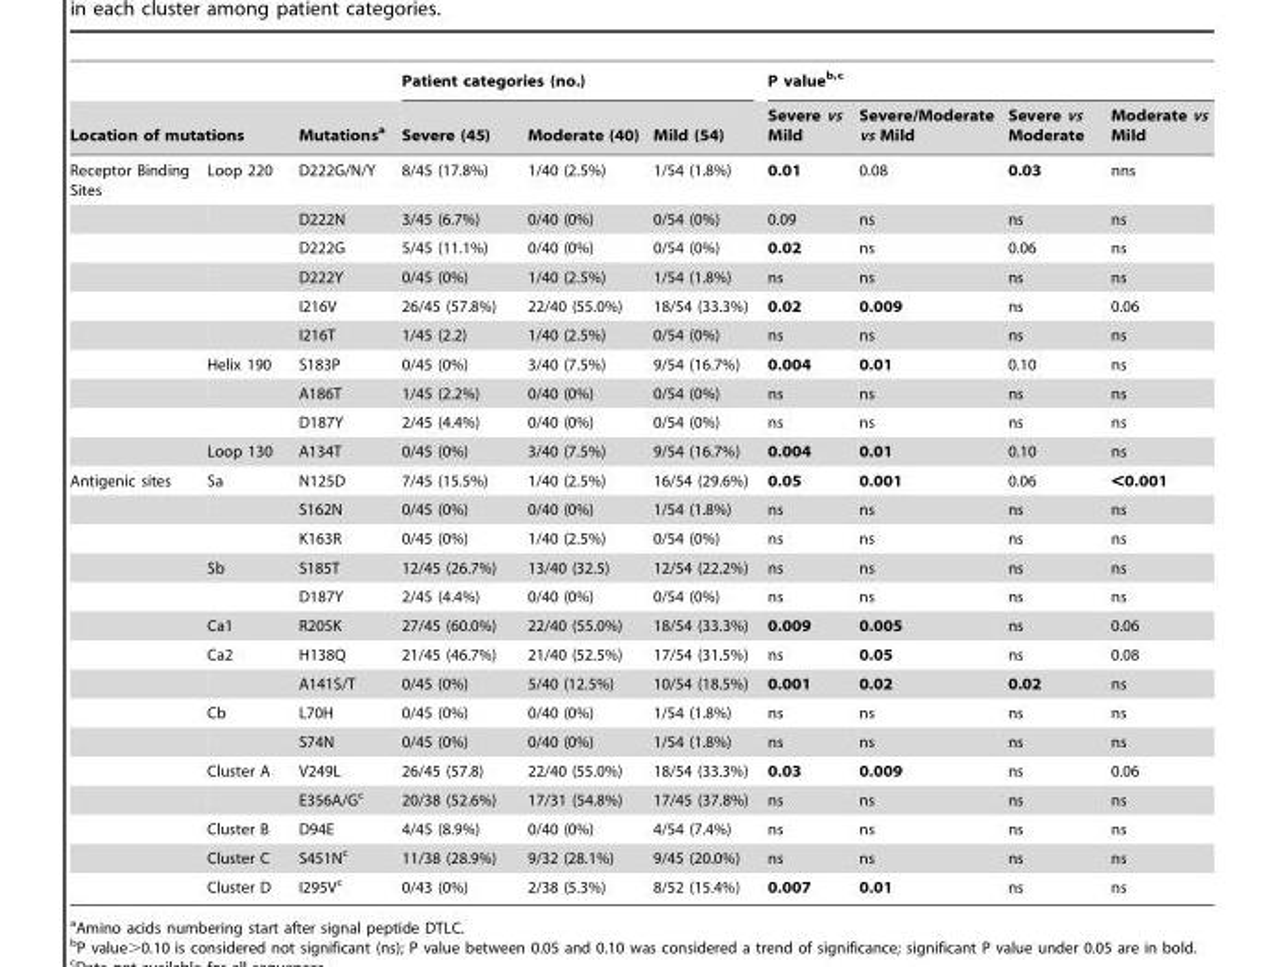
<table><thead><tr><td></td><td></td><td rowspan="2">Mutations<sup>a</sup></td><td colspan="3">Patient categories (no.)</td><td colspan="4">P value<sup>b,</sup>c</td></tr><tr><td colspan="2">Location of mutations</td><td>Severe (45)</td><td>Moderate (40)</td><td>Mild (54)</td><td>Severe vs Mild</td><td>Severe/Moderate vs Mild</td><td>Severe vs Moderate</td><td>Moderate vs Mild</td></tr></thead><tbody><tr><td rowspan="10">Receptor Binding Sites</td><td>Loop 220</td><td>D222G/N/Y</td><td>8/45 (17.8%)</td><td>1/40 (2.5%)</td><td>1/54 (1.8%)</td><td>0.01</td><td>0.08</td><td>0.03</td><td>nns</td></tr><tr><td></td><td>D222N</td><td>3/45 (6.7%)</td><td>0/40 (0%)</td><td>0/54 (0%)</td><td>0.09</td><td>ns</td><td>ns</td><td>ns</td></tr><tr><td></td><td>D222G</td><td>5/45 (11.1%)</td><td>0/40 (0%)</td><td>0/54 (0%)</td><td>0.02</td><td>ns</td><td>0.06</td><td>ns</td></tr><tr><td></td><td>D222Y</td><td>0/45 (0%)</td><td>1/40 (2.5%)</td><td>1/54 (1.8%)</td><td>ns</td><td>ns</td><td>ns</td><td>ns</td></tr><tr><td></td><td>I216V</td><td>26/45 (57.8%)</td><td>22/40 (55.0%)</td><td>18/54 (33.3%)</td><td>0.02</td><td>0.009</td><td>ns</td><td>0.06</td></tr><tr><td></td><td>I216T</td><td>1/45 (2.2)</td><td>1/40 (2.5%)</td><td>0/54 (0%)</td><td>ns</td><td>ns</td><td>ns</td><td>ns</td></tr><tr><td>Helix 190</td><td>S183P</td><td>0/45 (0%)</td><td>3/40 (7.5%)</td><td>9/54 (16.7%)</td><td>0.004</td><td>0.01</td><td>0.10</td><td>ns</td></tr><tr><td></td><td>A186T</td><td>1/45 (2.2%)</td><td>0/40 (0%)</td><td>0/54 (0%)</td><td>ns</td><td>ns</td><td>ns</td><td>ns</td></tr><tr><td></td><td>D187Y</td><td>2/45 (4.4%)</td><td>0/40 (0%)</td><td>0/54 (0%)</td><td>ns</td><td>ns</td><td>ns</td><td>ns</td></tr><tr><td>Loop 130</td><td>A134T</td><td>0/45 (0%)</td><td>3/40 (7.5%)</td><td>9/54 (16.7%)</td><td>0.004</td><td>0.01</td><td>0.10</td><td>ns</td></tr><tr><td rowspan="15">Antigenic sites</td><td>Sa</td><td>N125D</td><td>7/45 (15.5%)</td><td>1/40 (2.5%)</td><td>16/54 (29.6%)</td><td>0.05</td><td>0.001</td><td>0.06</td><td>&lt;0.001</td></tr><tr><td></td><td>S162N</td><td>0/45 (0%)</td><td>0/40 (0%)</td><td>1/54 (1.8%)</td><td>ns</td><td>ns</td><td>ns</td><td>ns</td></tr><tr><td></td><td>K163R</td><td>0/45 (0%)</td><td>1/40 (2.5%)</td><td>0/54 (0%)</td><td>ns</td><td>ns</td><td>ns</td><td>ns</td></tr><tr><td>Sb</td><td>S185T</td><td>12/45 (26.7%)</td><td>13/40 (32.5)</td><td>12/54 (22.2%)</td><td>ns</td><td>ns</td><td>ns</td><td>ns</td></tr><tr><td></td><td>D187Y</td><td>2/45 (4.4%)</td><td>0/40 (0%)</td><td>0/54 (0%)</td><td>ns</td><td>ns</td><td>ns</td><td>ns</td></tr><tr><td>Ca1</td><td>R205K</td><td>27/45 (60.0%)</td><td>22/40 (55.0%)</td><td>18/54 (33.3%)</td><td>0.009</td><td>0.005</td><td>ns</td><td>0.06</td></tr><tr><td>Ca2</td><td>H138Q</td><td>21/45 (46.7%)</td><td>21/40 (52.5%)</td><td>17/54 (31.5%)</td><td>ns</td><td>0.05</td><td>ns</td><td>0.08</td></tr><tr><td></td><td>A141S/T</td><td>0/45 (0%)</td><td>5/40 (12.5%)</td><td>10/54 (18.5%)</td><td>0.001</td><td>0.02</td><td>0.02</td><td>ns</td></tr><tr><td>Cb</td><td>L70H</td><td>0/45 (0%)</td><td>0/40 (0%)</td><td>1/54 (1.8%)</td><td>ns</td><td>ns</td><td>ns</td><td>ns</td></tr><tr><td></td><td>S74N</td><td>0/45 (0%)</td><td>0/40 (0%)</td><td>1/54 (1.8%)</td><td>ns</td><td>ns</td><td>ns</td><td>ns</td></tr><tr><td>Cluster A</td><td>V249L</td><td>26/45 (57.8)</td><td>22/40 (55.0%)</td><td>18/54 (33.3%)</td><td>0.03</td><td>0.009</td><td>ns</td><td>0.06</td></tr><tr><td></td><td>E356A/G<sup>c</sup></td><td>20/38 (52.6%)</td><td>17/31 (54.8%)</td><td>17/45 (37.8%)</td><td>ns</td><td>ns</td><td>ns</td><td>ns</td></tr><tr><td>Cluster B</td><td>D94E</td><td>4/45 (8.9%)</td><td>0/40 (0%)</td><td>4/54 (7.4%)</td><td>ns</td><td>ns</td><td>ns</td><td>ns</td></tr><tr><td>Cluster C</td><td>S451N<sup>c</sup></td><td>11/38 (28.9%)</td><td>9/32 (28.1%)</td><td>9/45 (20.0%)</td><td>ns</td><td>ns</td><td>ns</td><td>ns</td></tr><tr><td>Cluster D</td><td>I295V<sup>c</sup></td><td>0/43 (0%)</td><td>2/38 (5.3%)</td><td>8/52 (15.4%)</td><td>0.007</td><td>0.01</td><td>ns</td><td>ns</td></tr></tbody></table>